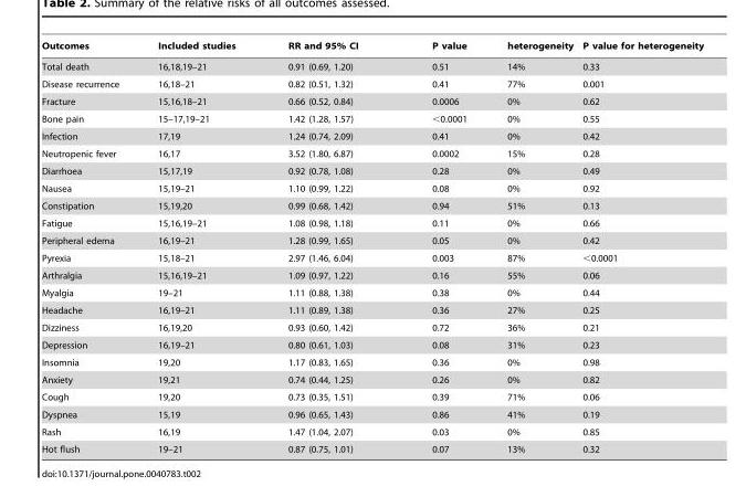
<table><thead><tr><td>Outcomes</td><td>Included studies</td><td>RR and 95% CI</td><td>P value</td><td>heterogeneity</td><td>P value for heterogeneity</td></tr></thead><tbody><tr><td>Total death</td><td>16,18,19–21</td><td>0.91 (0.69, 1.20)</td><td>0.51</td><td>14%</td><td>0.33</td></tr><tr><td>Disease recurrence</td><td>16,18–21</td><td>0.82 (0.51, 1.32)</td><td>0.41</td><td>77%</td><td>0.001</td></tr><tr><td>Fracture</td><td>15,16,18–21</td><td>0.66 (0.52, 0.84)</td><td>0.0006</td><td>0%</td><td>0.62</td></tr><tr><td>Bone pain</td><td>15–17,19–21</td><td>1.42 (1.28, 1.57)</td><td>&lt;0.0001</td><td>0%</td><td>0.55</td></tr><tr><td>Infection</td><td>17,19</td><td>1.24 (0.74, 2.09)</td><td>0.41</td><td>0%</td><td>0.42</td></tr><tr><td>Neutropenic fever</td><td>16,17</td><td>3.52 (1.80, 6.87)</td><td>0.0002</td><td>15%</td><td>0.28</td></tr><tr><td>Diarrhoea</td><td>15,17,19</td><td>0.92 (0.78, 1.08)</td><td>0.28</td><td>0%</td><td>0.49</td></tr><tr><td>Nausea</td><td>15,19–21</td><td>1.10 (0.99, 1.22)</td><td>0.08</td><td>0%</td><td>0.92</td></tr><tr><td>Constipation</td><td>15,19,20</td><td>0.99 (0.68, 1.42)</td><td>0.94</td><td>51%</td><td>0.13</td></tr><tr><td>Fatigue</td><td>15,16,19–21</td><td>1.08 (0.98, 1.18)</td><td>0.11</td><td>0%</td><td>0.66</td></tr><tr><td>Peripheral edema</td><td>16,19–21</td><td>1.28 (0.99, 1.65)</td><td>0.05</td><td>0%</td><td>0.42</td></tr><tr><td>Pyrexia</td><td>15,18–21</td><td>2.97 (1.46, 6.04)</td><td>0.003</td><td>87%</td><td>&lt;0.0001</td></tr><tr><td>Arthralgia</td><td>15,16,19–21</td><td>1.09 (0.97, 1.22)</td><td>0.16</td><td>55%</td><td>0.06</td></tr><tr><td>Myalgia</td><td>19–21</td><td>1.11 (0.88, 1.38)</td><td>0.38</td><td>0%</td><td>0.44</td></tr><tr><td>Headache</td><td>16,19–21</td><td>1.11 (0.89, 1.38)</td><td>0.36</td><td>27%</td><td>0.25</td></tr><tr><td>Dizziness</td><td>16,19,20</td><td>0.93 (0.60, 1.42)</td><td>0.72</td><td>36%</td><td>0.21</td></tr><tr><td>Depression</td><td>16,19–21</td><td>0.80 (0.61, 1.03)</td><td>0.08</td><td>31%</td><td>0.23</td></tr><tr><td>Insomnia</td><td>19,20</td><td>1.17 (0.83, 1.65)</td><td>0.36</td><td>0%</td><td>0.98</td></tr><tr><td>Anxiety</td><td>19,21</td><td>0.74 (0.44, 1.25)</td><td>0.26</td><td>0%</td><td>0.82</td></tr><tr><td>Cough</td><td>19,20</td><td>0.73 (0.35, 1.51)</td><td>0.39</td><td>71%</td><td>0.06</td></tr><tr><td>Dyspnea</td><td>15,19</td><td>0.96 (0.65, 1.43)</td><td>0.86</td><td>41%</td><td>0.19</td></tr><tr><td>Rash</td><td>16,19</td><td>1.47 (1.04, 2.07)</td><td>0.03</td><td>0%</td><td>0.85</td></tr><tr><td>Hot flush</td><td>19–21</td><td>0.87 (0.75, 1.01)</td><td>0.07</td><td>13%</td><td>0.32</td></tr></tbody></table>